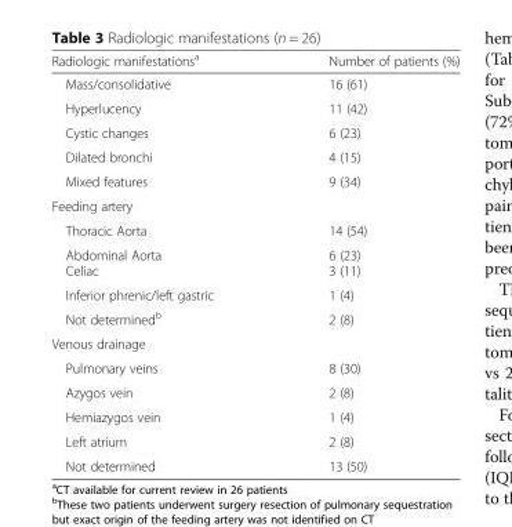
<table><thead><tr><td>Radiologic manifestations<sup>a</sup></td><td>Number of patients (%)</td></tr></thead><tbody><tr><td>Mass/consolidative</td><td>16 (61)</td></tr><tr><td>Hyperlucency</td><td>11 (42)</td></tr><tr><td>Cystic changes</td><td>6 (23)</td></tr><tr><td>Dilated bronchi</td><td>4 (15)</td></tr><tr><td>Mixed features</td><td>9 (34)</td></tr><tr><td colspan="2">Feeding artery</td></tr><tr><td>Thoracic Aorta</td><td>14 (54)</td></tr><tr><td>Abdominal Aorta Celiac</td><td>6 (23) 3 (11)</td></tr><tr><td>Inferior phrenic/left gastric</td><td>1 (4)</td></tr><tr><td>Not determined<sup>b</sup></td><td>2 (8)</td></tr><tr><td colspan="2">Venous drainage</td></tr><tr><td>Pulmonary veins</td><td>8 (30)</td></tr><tr><td>Azygos vein</td><td>2 (8)</td></tr><tr><td>Hemiazygos vein</td><td>1 (4)</td></tr><tr><td>Left atrium</td><td>2 (8)</td></tr><tr><td>Not determined</td><td>13 (50)</td></tr></tbody></table>